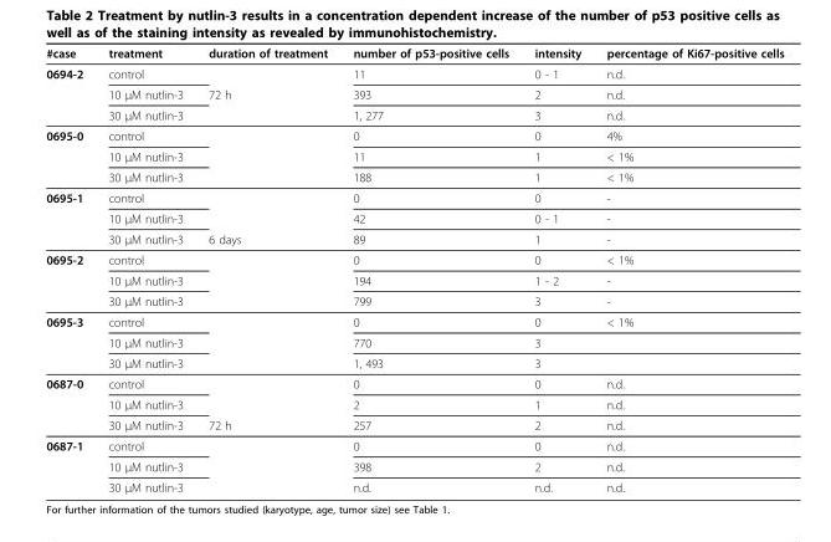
<table><thead><tr><td>#case</td><td>treatment</td><td>duration of treatment</td><td>number of p53-positive cells</td><td>intensity</td><td>percentage of Ki67-positive cells</td></tr></thead><tbody><tr><td rowspan="3">0694-2</td><td>control</td><td></td><td>11</td><td>0 - 1</td><td>n.d.</td></tr><tr><td>10 μM nutlin-3</td><td>72 h</td><td>393</td><td>2</td><td>n.d.</td></tr><tr><td>30 μM nutlin-3</td><td></td><td>1, 277</td><td>3</td><td>n.d.</td></tr><tr><td rowspan="3">0695-0</td><td>control</td><td></td><td>0</td><td>0</td><td>4%</td></tr><tr><td>10 μM nutlin-3</td><td></td><td>11</td><td>1</td><td>&lt; 1%</td></tr><tr><td>30 μM nutlin-3</td><td></td><td>188</td><td>1</td><td>&lt; 1%</td></tr><tr><td rowspan="3">0695-1</td><td>control</td><td></td><td>0</td><td>0</td><td>-</td></tr><tr><td>10 μM nutlin-3</td><td></td><td>42</td><td>0 - 1</td><td>-</td></tr><tr><td>30 μM nutlin-3</td><td>6 days</td><td>89</td><td>1</td><td>-</td></tr><tr><td rowspan="3">0695-2</td><td>control</td><td></td><td>0</td><td>0</td><td>&lt; 1%</td></tr><tr><td>10 μM nutlin-3</td><td></td><td>194</td><td>1 - 2</td><td>-</td></tr><tr><td>30 μM nutlin-3</td><td></td><td>799</td><td>3</td><td>-</td></tr><tr><td rowspan="3">0695-3</td><td>control</td><td></td><td>0</td><td>0</td><td>&lt; 1%</td></tr><tr><td>10 μM nutlin-3</td><td></td><td>770</td><td>3</td><td></td></tr><tr><td>30 μM nutlin-3</td><td></td><td>1, 493</td><td>3</td><td></td></tr><tr><td rowspan="3">0687-0</td><td>control</td><td></td><td>0</td><td>0</td><td>n.d.</td></tr><tr><td>10 μM nutlin-3</td><td></td><td>2</td><td>1</td><td>n.d.</td></tr><tr><td>30 μM nutlin-3</td><td>72 h</td><td>257</td><td>2</td><td>n.d.</td></tr><tr><td rowspan="3">0687-1</td><td>control</td><td></td><td>0</td><td>0</td><td>n.d.</td></tr><tr><td>10 μM nutlin-3</td><td></td><td>398</td><td>2</td><td>n.d.</td></tr><tr><td>30 μM nutlin-3</td><td></td><td>n.d.</td><td>n.d.</td><td>n.d.</td></tr></tbody></table>